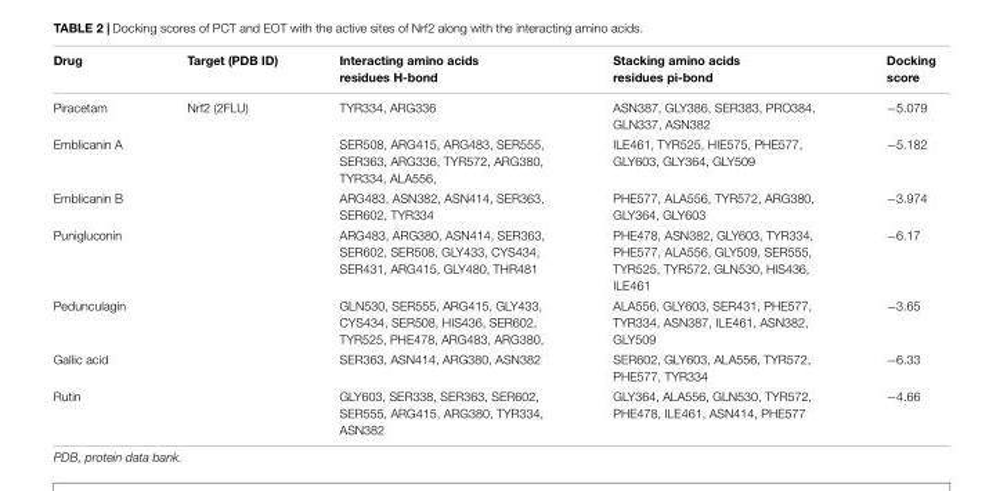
<table><thead><tr><td>Drug</td><td>Target (PDB ID)</td><td>Interacting amino acids residues H-bond</td><td>Stacking amino acids residues pi-bond</td><td>Docking score</td></tr></thead><tbody><tr><td>Piracetam</td><td>Nrf2 (2FLU)</td><td>TYR334, ARG336</td><td>ASN387, GLY386, SER383, PRO384, GLN337, ASN382</td><td>−5.079</td></tr><tr><td>Emblicanin A</td><td></td><td>SER508, ARG415, ARG483, SER555, SER363, ARG336, TYR572, ARG380, TYR334, ALA556,</td><td>ILE461, TYR525, HIE575, PHE577, GLY603, GLY364, GLY509</td><td>−5.182</td></tr><tr><td>Emblicanin B</td><td></td><td>ARG483, ASN382, ASN414, SER363, SER602, TYR334</td><td>PHE577, ALA556, TYR572, ARG380, GLY364, GLY603</td><td>−3.974</td></tr><tr><td>Punigluconin</td><td></td><td>ARG483, ARG380, ASN414, SER363, SER602, SER508, GLY433, CYS434, SER431, ARG415, GLY480, THR481</td><td>PHE478, ASN382, GLY603, TYR334, PHE577, ALA556, GLY509, SER555, TYR525, TYR572, GLN530, HIS436, ILE461</td><td>−6.17</td></tr><tr><td>Pedunculagin</td><td></td><td>GLN530, SER555, ARG415, GLY433, CYS434, SER508, HIS436, SER602, TYR525, PHE478, ARG483, ARG380,</td><td>ALA556, GLY603, SER431, PHE577, TYR334, ASN387, ILE461, ASN382, GLY509</td><td>−3.65</td></tr><tr><td>Gallic acid</td><td></td><td>SER363, ASN414, ARG380, ASN382</td><td>SER602, GLY603, ALA556, TYR572, PHE577, TYR334</td><td>−6.33</td></tr><tr><td>Rutin</td><td></td><td>GLY603, SER338, SER363, SER602, SER555, ARG415, ARG380, TYR334, ASN382</td><td>GLY364, ALA556, GLN530, TYR572, PHE478, ILE461, ASN414, PHE577</td><td>−4.66</td></tr></tbody></table>